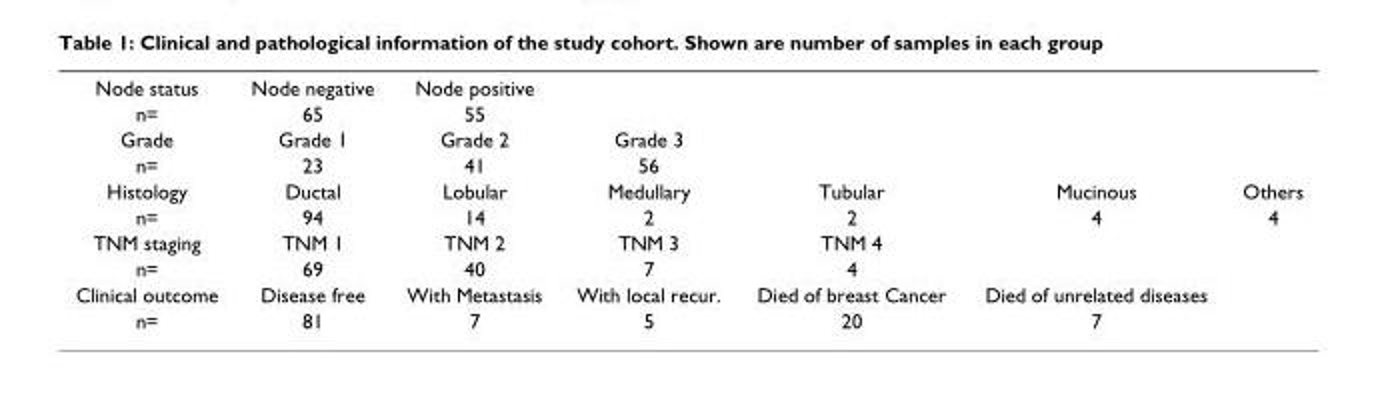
<table><tbody><tr><td>Node status</td><td>Node negative</td><td>Node positive</td><td></td><td></td><td></td><td></td></tr><tr><td>n=</td><td>65</td><td>55</td><td></td><td></td><td></td><td></td></tr><tr><td>Grade</td><td>Grade 1</td><td>Grade 2</td><td>Grade 3</td><td></td><td></td><td></td></tr><tr><td>n=</td><td>23</td><td>41</td><td>56</td><td></td><td></td><td></td></tr><tr><td>Histology</td><td>Ductal</td><td>Lobular</td><td>Medullary</td><td>Tubular</td><td>Mucinous</td><td>Others</td></tr><tr><td>n=</td><td>94</td><td>14</td><td>2</td><td>2</td><td>4</td><td>4</td></tr><tr><td>TNM staging</td><td>TNM 1</td><td>TNM 2</td><td>TNM 3</td><td>TNM 4</td><td></td><td></td></tr><tr><td>n=</td><td>69</td><td>40</td><td>7</td><td>4</td><td></td><td></td></tr><tr><td>Clinical outcome</td><td>Disease free</td><td>With Metastasis</td><td>With local recur.</td><td>Died of breast Cancer</td><td>Died of unrelated diseases</td><td></td></tr><tr><td>n=</td><td>81</td><td>7</td><td>5</td><td>20</td><td>7</td><td></td></tr></tbody></table>